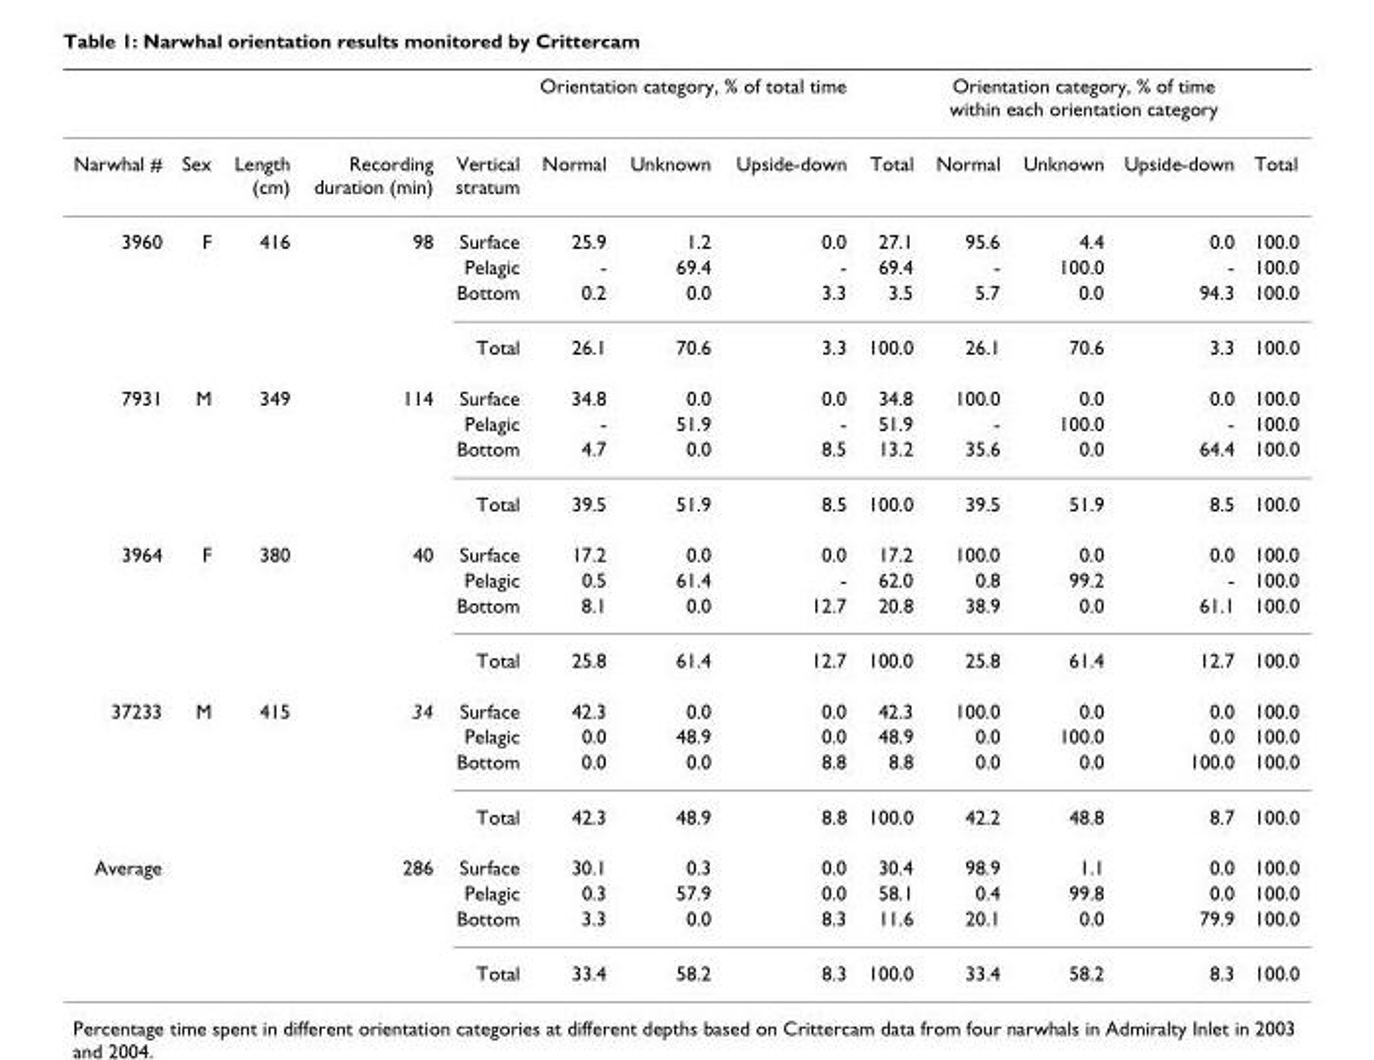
<table><thead><tr><td rowspan="2">Narwhal #</td><td rowspan="2">Sex</td><td rowspan="2">Length (cm)</td><td rowspan="2">Recording duration (min)</td><td rowspan="2">Vertical stratum</td><td colspan="3">Orientation category, % of total time</td><td rowspan="2">Total</td><td colspan="3">Orientation category, % of time within each orientation category</td><td rowspan="2">Total</td></tr><tr><td>Normal</td><td>Unknown</td><td>Upside-down</td><td>Normal</td><td>Unknown</td><td>Upside-down</td></tr></thead><tbody><tr><td rowspan="4">3960</td><td>F</td><td>416</td><td>98</td><td>Surface</td><td>25.9</td><td>1.2</td><td>0.0</td><td>27.1</td><td>95.6</td><td>4.4</td><td>0.0</td><td>100.0</td></tr><tr><td></td><td></td><td></td><td>Pelagic</td><td>-</td><td>69.4</td><td>-</td><td>69.4</td><td>-</td><td>100.0</td><td>-</td><td>100.0</td></tr><tr><td></td><td></td><td></td><td>Bottom</td><td>0.2</td><td>0.0</td><td>3.3</td><td>3.5</td><td>5.7</td><td>0.0</td><td>94.3</td><td>100.0</td></tr><tr><td></td><td></td><td></td><td>Total</td><td>26.1</td><td>70.6</td><td>3.3</td><td>100.0</td><td>26.1</td><td>70.6</td><td>3.3</td><td>100.0</td></tr><tr><td rowspan="4">7931</td><td>M</td><td>349</td><td>114</td><td>Surface</td><td>34.8</td><td>0.0</td><td>0.0</td><td>34.8</td><td>100.0</td><td>0.0</td><td>0.0</td><td>100.0</td></tr><tr><td></td><td></td><td></td><td>Pelagic</td><td>-</td><td>51.9</td><td>-</td><td>51.9</td><td>-</td><td>100.0</td><td>-</td><td>100.0</td></tr><tr><td></td><td></td><td></td><td>Bottom</td><td>4.7</td><td>0.0</td><td>8.5</td><td>13.2</td><td>35.6</td><td>0.0</td><td>64.4</td><td>100.0</td></tr><tr><td></td><td></td><td></td><td>Total</td><td>39.5</td><td>51.9</td><td>8.5</td><td>100.0</td><td>39.5</td><td>51.9</td><td>8.5</td><td>100.0</td></tr><tr><td rowspan="4">3964</td><td>F</td><td>380</td><td>40</td><td>Surface</td><td>17.2</td><td>0.0</td><td>0.0</td><td>17.2</td><td>100.0</td><td>0.0</td><td>0.0</td><td>100.0</td></tr><tr><td></td><td></td><td></td><td>Pelagic</td><td>0.5</td><td>61.4</td><td>-</td><td>62.0</td><td>0.8</td><td>99.2</td><td>-</td><td>100.0</td></tr><tr><td></td><td></td><td></td><td>Bottom</td><td>8.1</td><td>0.0</td><td>12.7</td><td>20.8</td><td>38.9</td><td>0.0</td><td>61.1</td><td>100.0</td></tr><tr><td></td><td></td><td></td><td>Total</td><td>25.8</td><td>61.4</td><td>12.7</td><td>100.0</td><td>25.8</td><td>61.4</td><td>12.7</td><td>100.0</td></tr><tr><td rowspan="4">37233</td><td>M</td><td>415</td><td>34</td><td>Surface</td><td>42.3</td><td>0.0</td><td>0.0</td><td>42.3</td><td>100.0</td><td>0.0</td><td>0.0</td><td>100.0</td></tr><tr><td></td><td></td><td></td><td>Pelagic</td><td>0.0</td><td>48.9</td><td>0.0</td><td>48.9</td><td>0.0</td><td>100.0</td><td>0.0</td><td>100.0</td></tr><tr><td></td><td></td><td></td><td>Bottom</td><td>0.0</td><td>0.0</td><td>8.8</td><td>8.8</td><td>0.0</td><td>0.0</td><td>100.0</td><td>100.0</td></tr><tr><td></td><td></td><td></td><td>Total</td><td>42.3</td><td>48.9</td><td>8.8</td><td>100.0</td><td>42.2</td><td>48.8</td><td>8.7</td><td>100.0</td></tr><tr><td rowspan="4">Average</td><td></td><td></td><td>286</td><td>Surface</td><td>30.1</td><td>0.3</td><td>0.0</td><td>30.4</td><td>98.9</td><td>1.1</td><td>0.0</td><td>100.0</td></tr><tr><td></td><td></td><td></td><td>Pelagic</td><td>0.3</td><td>57.9</td><td>0.0</td><td>58.1</td><td>0.4</td><td>99.8</td><td>0.0</td><td>100.0</td></tr><tr><td></td><td></td><td></td><td>Bottom</td><td>3.3</td><td>0.0</td><td>8.3</td><td>11.6</td><td>20.1</td><td>0.0</td><td>79.9</td><td>100.0</td></tr><tr><td></td><td></td><td></td><td>Total</td><td>33.4</td><td>58.2</td><td>8.3</td><td>100.0</td><td>33.4</td><td>58.2</td><td>8.3</td><td>100.0</td></tr></tbody></table>